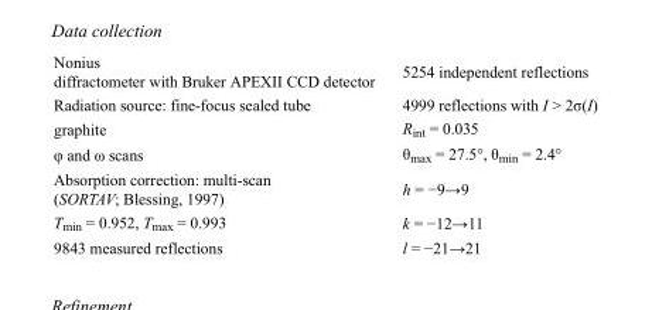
<table><tbody><tr><td>Nonius diffractometer with Bruker APEXII CCD detector</td><td>5254 independent reflections</td></tr><tr><td>Radiation source: fine-focus sealed tube</td><td>4999 reflections with I &gt; 2σ(I)</td></tr><tr><td>graphite</td><td>R<sub>int</sub> = 0.035</td></tr><tr><td>φ and ω scans</td><td>θ<sub>max</sub> = 27.5°, θ<sub>min</sub> = 2.4°</td></tr><tr><td>Absorption correction: multi-scan (SORTAV; Blessing, 1997)</td><td>h = −9→9</td></tr><tr><td>T<sub>min</sub> = 0.952, T<sub>max</sub> = 0.993</td><td>k = −12→11</td></tr><tr><td>9843 measured reflections</td><td>l = −21→21</td></tr></tbody></table>